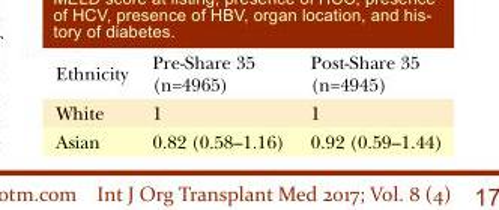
<table><thead><tr><td>Ethnicity</td><td>Pre-Share 35 (n=4965)</td><td>Post-Share 35 (n=4945)</td></tr></thead><tbody><tr><td>White</td><td>1</td><td>1</td></tr><tr><td>Asian</td><td>0.82 (0.58–1.16)</td><td>0.92 (0.59–1.44)</td></tr></tbody></table>